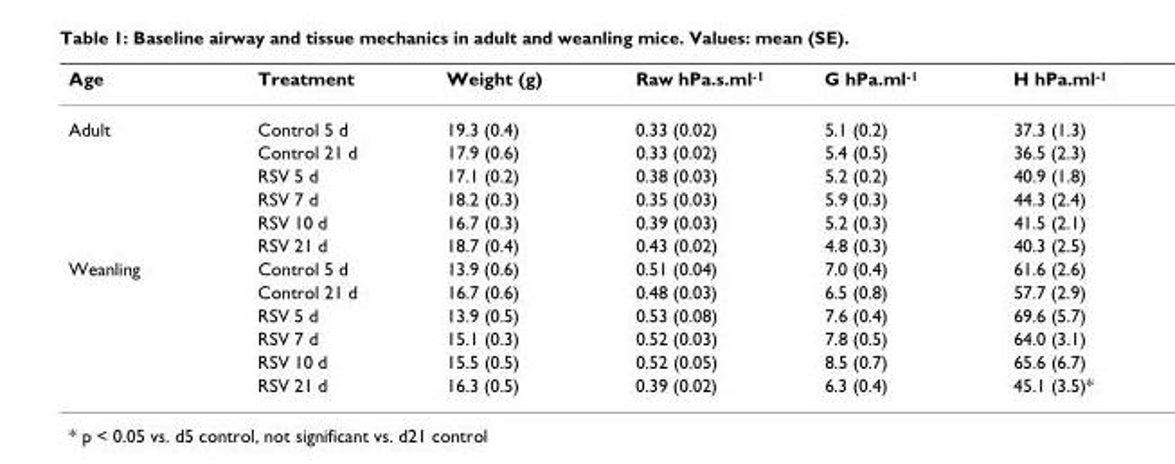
<table><thead><tr><td>Age</td><td>Treatment</td><td>Weight (g)</td><td>Raw hPa.s.ml<sup>-1</sup></td><td>G hPa.ml<sup>-1</sup></td><td>H hPa.ml<sup>-1</sup></td></tr></thead><tbody><tr><td rowspan="6">Adult</td><td>Control 5 d</td><td>19.3 (0.4)</td><td>0.33 (0.02)</td><td>5.1 (0.2)</td><td>37.3 (1.3)</td></tr><tr><td>Control 21 d</td><td>17.9 (0.6)</td><td>0.33 (0.02)</td><td>5.4 (0.5)</td><td>36.5 (2.3)</td></tr><tr><td>RSV 5 d</td><td>17.1 (0.2)</td><td>0.38 (0.03)</td><td>5.2 (0.2)</td><td>40.9 (1.8)</td></tr><tr><td>RSV 7 d</td><td>18.2 (0.3)</td><td>0.35 (0.03)</td><td>5.9 (0.3)</td><td>44.3 (2.4)</td></tr><tr><td>RSV 10 d</td><td>16.7 (0.3)</td><td>0.39 (0.03)</td><td>5.2 (0.3)</td><td>41.5 (2.1)</td></tr><tr><td>RSV 21 d</td><td>18.7 (0.4)</td><td>0.43 (0.02)</td><td>4.8 (0.3)</td><td>40.3 (2.5)</td></tr><tr><td rowspan="6">Weanling</td><td>Control 5 d</td><td>13.9 (0.6)</td><td>0.51 (0.04)</td><td>7.0 (0.4)</td><td>61.6 (2.6)</td></tr><tr><td>Control 21 d</td><td>16.7 (0.6)</td><td>0.48 (0.03)</td><td>6.5 (0.8)</td><td>57.7 (2.9)</td></tr><tr><td>RSV 5 d</td><td>13.9 (0.5)</td><td>0.53 (0.08)</td><td>7.6 (0.4)</td><td>69.6 (5.7)</td></tr><tr><td>RSV 7 d</td><td>15.1 (0.3)</td><td>0.52 (0.03)</td><td>7.8 (0.5)</td><td>64.0 (3.1)</td></tr><tr><td>RSV 10 d</td><td>15.5 (0.5)</td><td>0.52 (0.05)</td><td>8.5 (0.7)</td><td>65.6 (6.7)</td></tr><tr><td>RSV 21 d</td><td>16.3 (0.5)</td><td>0.39 (0.02)</td><td>6.3 (0.4)</td><td>45.1 (3.5)*</td></tr></tbody></table>